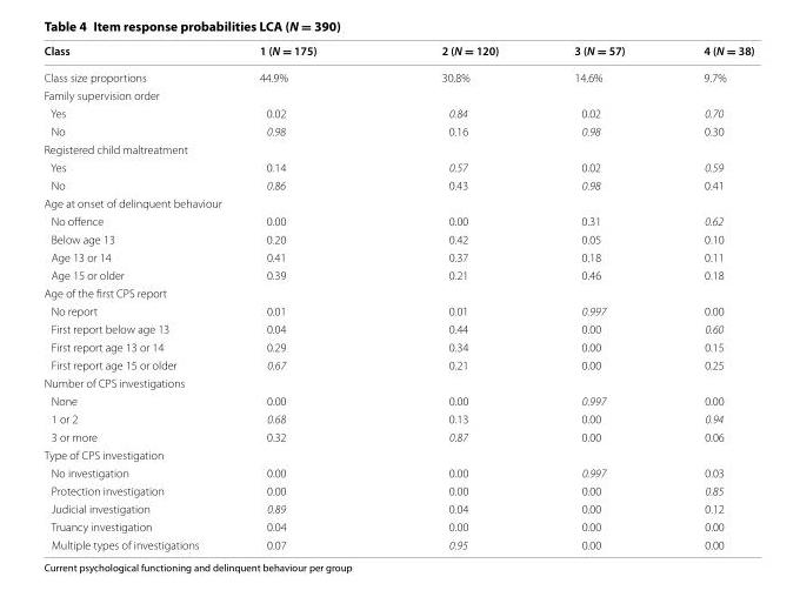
<table><thead><tr><td>Class</td><td>1 (N = 175)</td><td>2 (N = 120)</td><td>3 (N = 57)</td><td>4 (N = 38)</td></tr></thead><tbody><tr><td>Class size proportions</td><td>44.9%</td><td>30.8%</td><td>14.6%</td><td>9.7%</td></tr><tr><td colspan="5">Family supervision order</td></tr><tr><td>Yes</td><td>0.02</td><td>0.84</td><td>0.02</td><td>0.70</td></tr><tr><td>No</td><td>0.98</td><td>0.16</td><td>0.98</td><td>0.30</td></tr><tr><td colspan="5">Registered child maltreatment</td></tr><tr><td>Yes</td><td>0.14</td><td>0.57</td><td>0.02</td><td>0.59</td></tr><tr><td>No</td><td>0.86</td><td>0.43</td><td>0.98</td><td>0.41</td></tr><tr><td colspan="5">Age at onset of delinquent behaviour</td></tr><tr><td>No offence</td><td>0.00</td><td>0.00</td><td>0.31</td><td>0.62</td></tr><tr><td>Below age 13</td><td>0.20</td><td>0.42</td><td>0.05</td><td>0.10</td></tr><tr><td>Age 13 or 14</td><td>0.41</td><td>0.37</td><td>0.18</td><td>0.11</td></tr><tr><td>Age 15 or older</td><td>0.39</td><td>0.21</td><td>0.46</td><td>0.18</td></tr><tr><td colspan="5">Age of the first CPS report</td></tr><tr><td>No report</td><td>0.01</td><td>0.01</td><td>0.997</td><td>0.00</td></tr><tr><td>First report below age 13</td><td>0.04</td><td>0.44</td><td>0.00</td><td>0.60</td></tr><tr><td>First report age 13 or 14</td><td>0.29</td><td>0.34</td><td>0.00</td><td>0.15</td></tr><tr><td>First report age 15 or older</td><td>0.67</td><td>0.21</td><td>0.00</td><td>0.25</td></tr><tr><td colspan="5">Number of CPS investigations</td></tr><tr><td>None</td><td>0.00</td><td>0.00</td><td>0.997</td><td>0.00</td></tr><tr><td>1 or 2</td><td>0.68</td><td>0.13</td><td>0.00</td><td>0.94</td></tr><tr><td>3 or more</td><td>0.32</td><td>0.87</td><td>0.00</td><td>0.06</td></tr><tr><td colspan="5">Type of CPS investigation</td></tr><tr><td>No investigation</td><td>0.00</td><td>0.00</td><td>0.997</td><td>0.03</td></tr><tr><td>Protection investigation</td><td>0.00</td><td>0.00</td><td>0.00</td><td>0.85</td></tr><tr><td>Judicial investigation</td><td>0.89</td><td>0.04</td><td>0.00</td><td>0.12</td></tr><tr><td>Truancy investigation</td><td>0.04</td><td>0.00</td><td>0.00</td><td>0.00</td></tr><tr><td>Multiple types of investigations</td><td>0.07</td><td>0.95</td><td>0.00</td><td>0.00</td></tr></tbody></table>